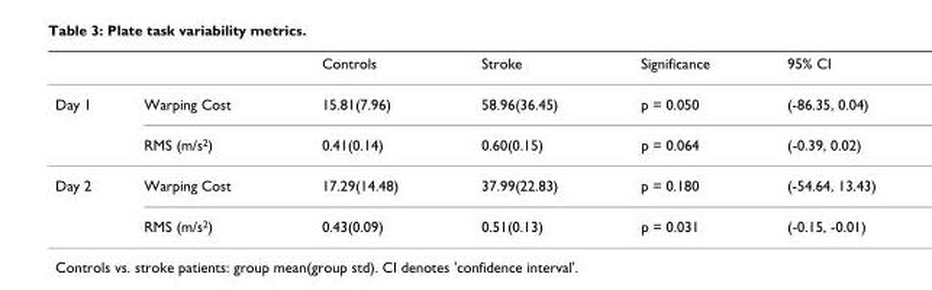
<table><thead><tr><td></td><td></td><td>Controls</td><td>Stroke</td><td>Significance</td><td>95% CI</td></tr></thead><tbody><tr><td rowspan="2">Day 1</td><td>Warping Cost</td><td>15.81(7.96)</td><td>58.96(36.45)</td><td>p = 0.050</td><td>(-86.35, 0.04)</td></tr><tr><td>RMS (m/s<sup>2</sup>)</td><td>0.41(0.14)</td><td>0.60(0.15)</td><td>p = 0.064</td><td>(-0.39, 0.02)</td></tr><tr><td rowspan="2">Day 2</td><td>Warping Cost</td><td>17.29(14.48)</td><td>37.99(22.83)</td><td>p = 0.180</td><td>(-54.64, 13.43)</td></tr><tr><td>RMS (m/s<sup>2</sup>)</td><td>0.43(0.09)</td><td>0.51(0.13)</td><td>p = 0.031</td><td>(-0.15, -0.01)</td></tr></tbody></table>